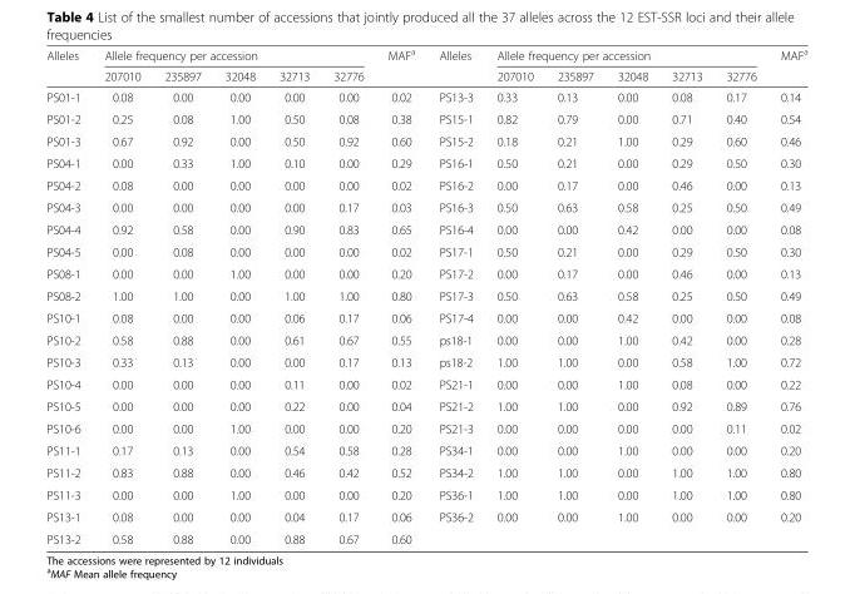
<table><thead><tr><td rowspan="2">Alleles</td><td colspan="5">Allele frequency per accession</td><td rowspan="2">MAF<sup>a</sup></td><td rowspan="2">Alleles</td><td colspan="5">Allele frequency per accession</td><td rowspan="2">MAF<sup>a</sup></td></tr><tr><td>207010</td><td>235897</td><td>32048</td><td>32713</td><td>32776</td><td>207010</td><td>235897</td><td>32048</td><td>32713</td><td>32776</td></tr></thead><tbody><tr><td>PS01-1</td><td>0.08</td><td>0.00</td><td>0.00</td><td>0.00</td><td>0.00</td><td>0.02</td><td>PS13-3</td><td>0.33</td><td>0.13</td><td>0.00</td><td>0.08</td><td>0.17</td><td>0.14</td></tr><tr><td>PS01-2</td><td>0.25</td><td>0.08</td><td>1.00</td><td>0.50</td><td>0.08</td><td>0.38</td><td>PS15-1</td><td>0.82</td><td>0.79</td><td>0.00</td><td>0.71</td><td>0.40</td><td>0.54</td></tr><tr><td>PS01-3</td><td>0.67</td><td>0.92</td><td>0.00</td><td>0.50</td><td>0.92</td><td>0.60</td><td>PS15-2</td><td>0.18</td><td>0.21</td><td>1.00</td><td>0.29</td><td>0.60</td><td>0.46</td></tr><tr><td>PS04-1</td><td>0.00</td><td>0.33</td><td>1.00</td><td>0.10</td><td>0.00</td><td>0.29</td><td>PS16-1</td><td>0.50</td><td>0.21</td><td>0.00</td><td>0.29</td><td>0.50</td><td>0.30</td></tr><tr><td>PS04-2</td><td>0.08</td><td>0.00</td><td>0.00</td><td>0.00</td><td>0.00</td><td>0.02</td><td>PS16-2</td><td>0.00</td><td>0.17</td><td>0.00</td><td>0.46</td><td>0.00</td><td>0.13</td></tr><tr><td>PS04-3</td><td>0.00</td><td>0.00</td><td>0.00</td><td>0.00</td><td>0.17</td><td>0.03</td><td>PS16-3</td><td>0.50</td><td>0.63</td><td>0.58</td><td>0.25</td><td>0.50</td><td>0.49</td></tr><tr><td>PS04-4</td><td>0.92</td><td>0.58</td><td>0.00</td><td>0.90</td><td>0.83</td><td>0.65</td><td>PS16-4</td><td>0.00</td><td>0.00</td><td>0.42</td><td>0.00</td><td>0.00</td><td>0.08</td></tr><tr><td>PS04-5</td><td>0.00</td><td>0.08</td><td>0.00</td><td>0.00</td><td>0.00</td><td>0.02</td><td>PS17-1</td><td>0.50</td><td>0.21</td><td>0.00</td><td>0.29</td><td>0.50</td><td>0.30</td></tr><tr><td>PS08-1</td><td>0.00</td><td>0.00</td><td>1.00</td><td>0.00</td><td>0.00</td><td>0.20</td><td>PS17-2</td><td>0.00</td><td>0.17</td><td>0.00</td><td>0.46</td><td>0.00</td><td>0.13</td></tr><tr><td>PS08-2</td><td>1.00</td><td>1.00</td><td>0.00</td><td>1.00</td><td>1.00</td><td>0.80</td><td>PS17-3</td><td>0.50</td><td>0.63</td><td>0.58</td><td>0.25</td><td>0.50</td><td>0.49</td></tr><tr><td>PS10-1</td><td>0.08</td><td>0.00</td><td>0.00</td><td>0.06</td><td>0.17</td><td>0.06</td><td>PS17-4</td><td>0.00</td><td>0.00</td><td>0.42</td><td>0.00</td><td>0.00</td><td>0.08</td></tr><tr><td>PS10-2</td><td>0.58</td><td>0.88</td><td>0.00</td><td>0.61</td><td>0.67</td><td>0.55</td><td>ps18-1</td><td>0.00</td><td>0.00</td><td>1.00</td><td>0.42</td><td>0.00</td><td>0.28</td></tr><tr><td>PS10-3</td><td>0.33</td><td>0.13</td><td>0.00</td><td>0.00</td><td>0.17</td><td>0.13</td><td>ps18-2</td><td>1.00</td><td>1.00</td><td>0.00</td><td>0.58</td><td>1.00</td><td>0.72</td></tr><tr><td>PS10-4</td><td>0.00</td><td>0.00</td><td>0.00</td><td>0.11</td><td>0.00</td><td>0.02</td><td>PS21-1</td><td>0.00</td><td>0.00</td><td>1.00</td><td>0.08</td><td>0.00</td><td>0.22</td></tr><tr><td>PS10-5</td><td>0.00</td><td>0.00</td><td>0.00</td><td>0.22</td><td>0.00</td><td>0.04</td><td>PS21-2</td><td>1.00</td><td>1.00</td><td>0.00</td><td>0.92</td><td>0.89</td><td>0.76</td></tr><tr><td>PS10-6</td><td>0.00</td><td>0.00</td><td>1.00</td><td>0.00</td><td>0.00</td><td>0.20</td><td>PS21-3</td><td>0.00</td><td>0.00</td><td>0.00</td><td>0.00</td><td>0.11</td><td>0.02</td></tr><tr><td>PS11-1</td><td>0.17</td><td>0.13</td><td>0.00</td><td>0.54</td><td>0.58</td><td>0.28</td><td>PS34-1</td><td>0.00</td><td>0.00</td><td>1.00</td><td>0.00</td><td>0.00</td><td>0.20</td></tr><tr><td>PS11-2</td><td>0.83</td><td>0.88</td><td>0.00</td><td>0.46</td><td>0.42</td><td>0.52</td><td>PS34-2</td><td>1.00</td><td>1.00</td><td>0.00</td><td>1.00</td><td>1.00</td><td>0.80</td></tr><tr><td>PS11-3</td><td>0.00</td><td>0.00</td><td>1.00</td><td>0.00</td><td>0.00</td><td>0.20</td><td>PS36-1</td><td>1.00</td><td>1.00</td><td>0.00</td><td>1.00</td><td>1.00</td><td>0.80</td></tr><tr><td>PS13-1</td><td>0.08</td><td>0.00</td><td>0.00</td><td>0.04</td><td>0.17</td><td>0.06</td><td>PS36-2</td><td>0.00</td><td>0.00</td><td>1.00</td><td>0.00</td><td>0.00</td><td>0.20</td></tr><tr><td>PS13-2</td><td>0.58</td><td>0.88</td><td>0.00</td><td>0.88</td><td>0.67</td><td>0.60</td><td></td><td></td><td></td><td></td><td></td><td></td><td></td></tr></tbody></table>